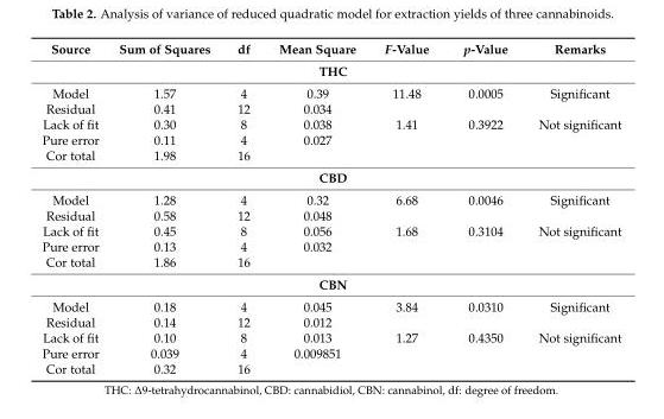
<table><thead><tr><td>Source</td><td>Sum of Squares</td><td>df</td><td>Mean Square</td><td>F-Value</td><td>p-Value</td><td>Remarks</td></tr></thead><tbody><tr><td colspan="7">THC</td></tr><tr><td>Model</td><td>1.57</td><td>4</td><td>0.39</td><td>11.48</td><td>0.0005</td><td>Significant</td></tr><tr><td>Residual</td><td>0.41</td><td>12</td><td>0.034</td><td></td><td></td><td></td></tr><tr><td>Lack of fit</td><td>0.30</td><td>8</td><td>0.038</td><td>1.41</td><td>0.3922</td><td>Not significant</td></tr><tr><td>Pure error</td><td>0.11</td><td>4</td><td>0.027</td><td></td><td></td><td></td></tr><tr><td>Cor total</td><td>1.98</td><td>16</td><td></td><td></td><td></td><td></td></tr><tr><td colspan="7">CBD</td></tr><tr><td>Model</td><td>1.28</td><td>4</td><td>0.32</td><td>6.68</td><td>0.0046</td><td>Significant</td></tr><tr><td>Residual</td><td>0.58</td><td>12</td><td>0.048</td><td></td><td></td><td></td></tr><tr><td>Lack of fit</td><td>0.45</td><td>8</td><td>0.056</td><td>1.68</td><td>0.3104</td><td>Not significant</td></tr><tr><td>Pure error</td><td>0.13</td><td>4</td><td>0.032</td><td></td><td></td><td></td></tr><tr><td>Cor total</td><td>1.86</td><td>16</td><td></td><td></td><td></td><td></td></tr><tr><td colspan="7">CBN</td></tr><tr><td>Model</td><td>0.18</td><td>4</td><td>0.045</td><td>3.84</td><td>0.0310</td><td>Significant</td></tr><tr><td>Residual</td><td>0.14</td><td>12</td><td>0.012</td><td></td><td></td><td></td></tr><tr><td>Lack of fit</td><td>0.10</td><td>8</td><td>0.013</td><td>1.27</td><td>0.4350</td><td>Not significant</td></tr><tr><td>Pure error</td><td>0.039</td><td>4</td><td>0.009851</td><td></td><td></td><td></td></tr><tr><td>Cor total</td><td>0.32</td><td>16</td><td></td><td></td><td></td><td></td></tr></tbody></table>